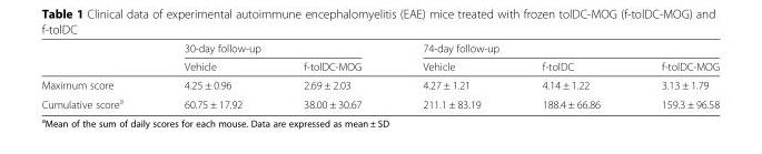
<table><thead><tr><td rowspan="2"></td><td colspan="2">30-day follow-up</td><td colspan="3">74-day follow-up</td></tr><tr><td>Vehicle</td><td>f-tolDC-MOG</td><td>Vehicle</td><td>f-tolDC</td><td>f-tolDC-MOG</td></tr></thead><tbody><tr><td>Maximum score</td><td>4.25 ± 0.96</td><td>2.69 ± 2.03</td><td>4.27 ± 1.21</td><td>4.14 ± 1.22</td><td>3.13 ± 1.79</td></tr><tr><td>Cumulative score<sup>a</sup></td><td>60.75 ± 17.92</td><td>38.00 ± 30.67</td><td>211.1 ± 83.19</td><td>188.4 ± 66.86</td><td>159.3 ± 96.58</td></tr></tbody></table>